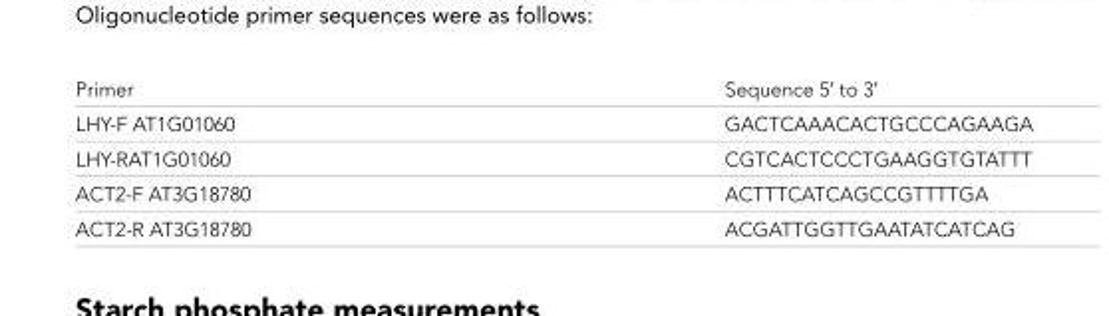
<table><tbody><tr><td>Primer</td><td>Sequence 5′ to 3′</td></tr><tr><td>LHY-F AT1G01060</td><td>GACTCAAACACTGCCCAGAAGA</td></tr><tr><td>LHY-RAT1G01060</td><td>CGTCACTCCCTGAAGGTGTATTT</td></tr><tr><td>ACT2-F AT3G18780</td><td>ACTTTCATCAGCCGTTTTGA</td></tr><tr><td>ACT2-R AT3G18780</td><td>ACGATTGGTTGAATATCATCAG</td></tr></tbody></table>